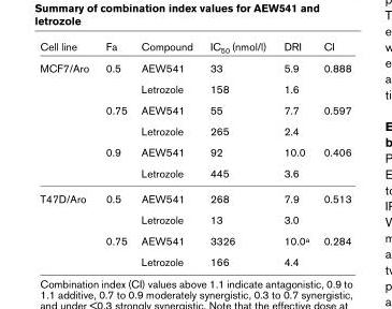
<table><thead><tr><td>Cell line</td><td>Fa</td><td>Compound</td><td>IC<sub>50</sub> (nmol/l)</td><td>DRI</td><td>CI</td></tr></thead><tbody><tr><td rowspan="6">MCF7/Aro</td><td>0.5</td><td>AEW541</td><td>33</td><td>5.9</td><td>0.888</td></tr><tr><td></td><td>Letrozole</td><td>158</td><td>1.6</td><td></td></tr><tr><td>0.75</td><td>AEW541</td><td>55</td><td>7.7</td><td>0.597</td></tr><tr><td></td><td>Letrozole</td><td>265</td><td>2.4</td><td></td></tr><tr><td>0.9</td><td>AEW541</td><td>92</td><td>10.0</td><td>0.406</td></tr><tr><td></td><td>Letrozole</td><td>445</td><td>3.6</td><td></td></tr><tr><td rowspan="4">T47D/Aro</td><td>0.5</td><td>AEW541</td><td>268</td><td>7.9</td><td>0.513</td></tr><tr><td></td><td>Letrozole</td><td>13</td><td>3.0</td><td></td></tr><tr><td>0.75</td><td>AEW541</td><td>3326</td><td>10.0<sup>a</sup></td><td>0.284</td></tr><tr><td></td><td>Letrozole</td><td>166</td><td>4.4</td><td></td></tr></tbody></table>